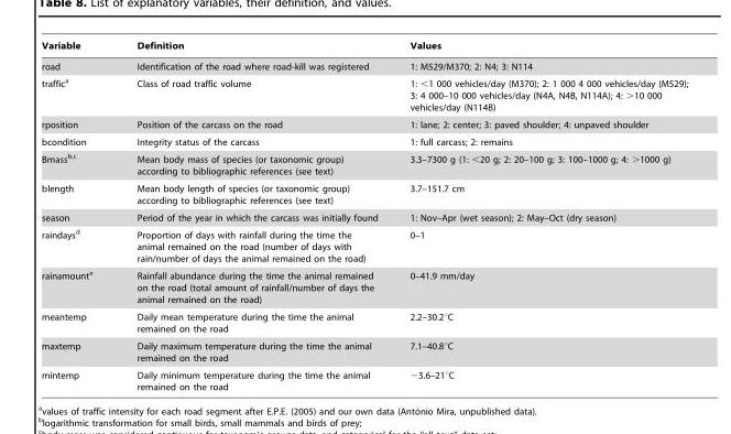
<table><thead><tr><td>Variable</td><td>Definition</td><td>Values</td></tr></thead><tbody><tr><td>road</td><td>Identification of the road where road-kill was registered</td><td>1: M529/M370; 2: N4; 3: N114</td></tr><tr><td>traffic<sup>a</sup></td><td>Class of road traffic volume</td><td>1: &lt;1 000 vehicles/day (M370); 2: 1 000 4 000 vehicles/day (M529); 3: 4 000–10 000 vehicles/day (N4A, N4B, N114A); 4: &gt;10 000 vehicles/day (N114B)</td></tr><tr><td>rposition</td><td>Position of the carcass on the road</td><td>1: lane; 2: center; 3: paved shoulder; 4: unpaved shoulder</td></tr><tr><td>bcondition</td><td>Integrity status of the carcass</td><td>1: full carcass; 2: remains</td></tr><tr><td>Bmass<sup>b,</sup>c</td><td>Mean body mass of species (or taxonomic group) according to bibliographic references (see text)</td><td>3.3–7300 g (1: &lt;20 g; 2: 20–100 g; 3: 100–1000 g; 4: &gt;1000 g)</td></tr><tr><td>blength</td><td>Mean body length of species (or taxonomic group) according to bibliographic references (see text)</td><td>3.7–151.7 cm</td></tr><tr><td>season</td><td>Period of the year in which the carcass was initially found</td><td>1: Nov–Apr (wet season); 2: May–Oct (dry season)</td></tr><tr><td>raindays<sup>d</sup></td><td>Proportion of days with rainfall during the time the animal remained on the road (number of days with rain/number of days the animal remained on the road)</td><td>0–1</td></tr><tr><td>rainamount<sup>e</sup></td><td>Rainfall abundance during the time the animal remained on the road (total amount of rainfall/number of days the animal remained on the road)</td><td>0–41.9 mm/day</td></tr><tr><td>meantemp</td><td>Daily mean temperature during the time the animal remained on the road</td><td>2.2–30.2°C</td></tr><tr><td>maxtemp</td><td>Daily maximum temperature during the time the animal remained on the road</td><td>7.1–40.8°C</td></tr><tr><td>mintemp</td><td>Daily minimum temperature during the time the animal remained on the road</td><td>−3.6–21°C</td></tr></tbody></table>